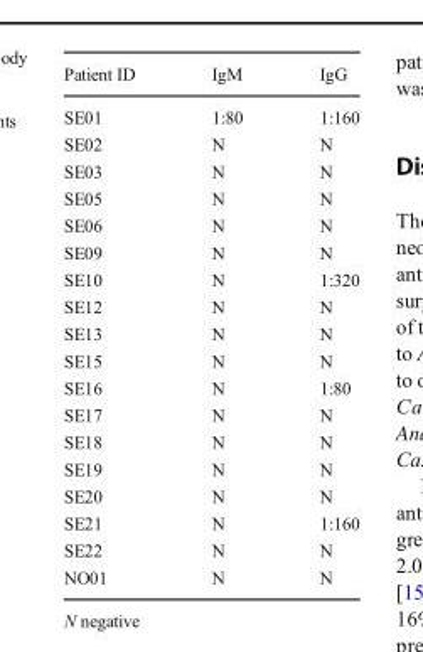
<table><thead><tr><td>Patient ID</td><td>IgM</td><td>IgG</td></tr></thead><tbody><tr><td>SE01</td><td>1:80</td><td>1:160</td></tr><tr><td>SE02</td><td>N</td><td>N</td></tr><tr><td>SE03</td><td>N</td><td>N</td></tr><tr><td>SE05</td><td>N</td><td>N</td></tr><tr><td>SE06</td><td>N</td><td>N</td></tr><tr><td>SE09</td><td>N</td><td>N</td></tr><tr><td>SE10</td><td>N</td><td>1:320</td></tr><tr><td>SE12</td><td>N</td><td>N</td></tr><tr><td>SE13</td><td>N</td><td>N</td></tr><tr><td>SE15</td><td>N</td><td>N</td></tr><tr><td>SE16</td><td>N</td><td>1:80</td></tr><tr><td>SE17</td><td>N</td><td>N</td></tr><tr><td>SE18</td><td>N</td><td>N</td></tr><tr><td>SE19</td><td>N</td><td>N</td></tr><tr><td>SE20</td><td>N</td><td>N</td></tr><tr><td>SE21</td><td>N</td><td>1:160</td></tr><tr><td>SE22</td><td>N</td><td>N</td></tr><tr><td>NO01</td><td>N</td><td>N</td></tr></tbody></table>